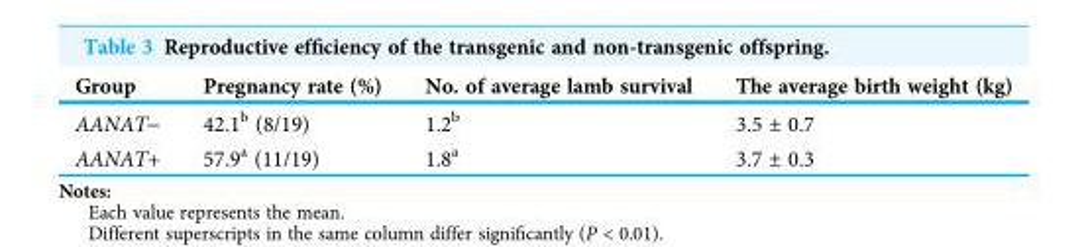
<table><thead><tr><td>Group</td><td>Pregnancy rate (%)</td><td>No. of average lamb survival</td><td>The average birth weight (kg)</td></tr></thead><tbody><tr><td>AANAT-</td><td>42.1<sup>b</sup> (8/19)</td><td>1.2<sup>b</sup></td><td>3.5 ± 0.7</td></tr><tr><td>AANAT+</td><td>57.9<sup>a</sup> (11/19)</td><td>1.8<sup>a</sup></td><td>3.7 ± 0.3</td></tr></tbody></table>